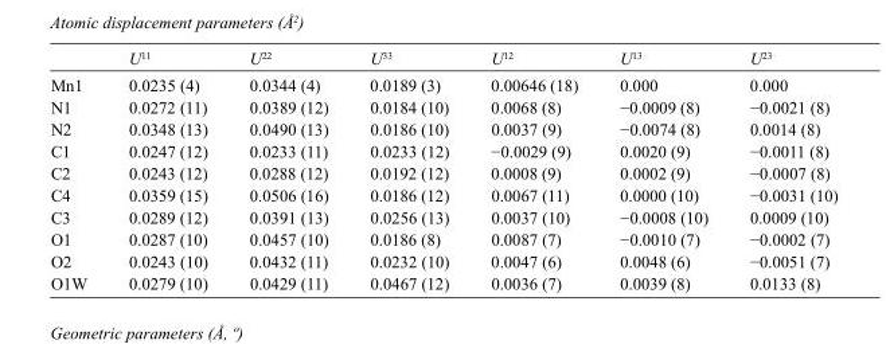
<table><thead><tr><td></td><td>U<sup>11</sup></td><td>U<sup>22</sup></td><td>U<sup>33</sup></td><td>U<sup>12</sup></td><td>U<sup>13</sup></td><td>U<sup>23</sup></td></tr></thead><tbody><tr><td>Mn1</td><td>0.0235 (4)</td><td>0.0344 (4)</td><td>0.0189 (3)</td><td>0.00646 (18)</td><td>0.000</td><td>0.000</td></tr><tr><td>N1</td><td>0.0272 (11)</td><td>0.0389 (12)</td><td>0.0184 (10)</td><td>0.0068 (8)</td><td>−0.0009 (8)</td><td>−0.0021 (8)</td></tr><tr><td>N2</td><td>0.0348 (13)</td><td>0.0490 (13)</td><td>0.0186 (10)</td><td>0.0037 (9)</td><td>−0.0074 (8)</td><td>0.0014 (8)</td></tr><tr><td>C1</td><td>0.0247 (12)</td><td>0.0233 (11)</td><td>0.0233 (12)</td><td>−0.0029 (9)</td><td>0.0020 (9)</td><td>−0.0011 (8)</td></tr><tr><td>C2</td><td>0.0243 (12)</td><td>0.0288 (12)</td><td>0.0192 (12)</td><td>0.0008 (9)</td><td>0.0002 (9)</td><td>−0.0007 (8)</td></tr><tr><td>C4</td><td>0.0359 (15)</td><td>0.0506 (16)</td><td>0.0186 (12)</td><td>0.0067 (11)</td><td>0.0000 (10)</td><td>−0.0031 (10)</td></tr><tr><td>C3</td><td>0.0289 (12)</td><td>0.0391 (13)</td><td>0.0256 (13)</td><td>0.0037 (10)</td><td>−0.0008 (10)</td><td>0.0009 (10)</td></tr><tr><td>O1</td><td>0.0287 (10)</td><td>0.0457 (10)</td><td>0.0186 (8)</td><td>0.0087 (7)</td><td>−0.0010 (7)</td><td>−0.0002 (7)</td></tr><tr><td>O2</td><td>0.0243 (10)</td><td>0.0432 (11)</td><td>0.0232 (10)</td><td>0.0047 (6)</td><td>0.0048 (6)</td><td>−0.0051 (7)</td></tr><tr><td>O1W</td><td>0.0279 (10)</td><td>0.0429 (11)</td><td>0.0467 (12)</td><td>0.0036 (7)</td><td>0.0039 (8)</td><td>0.0133 (8)</td></tr></tbody></table>